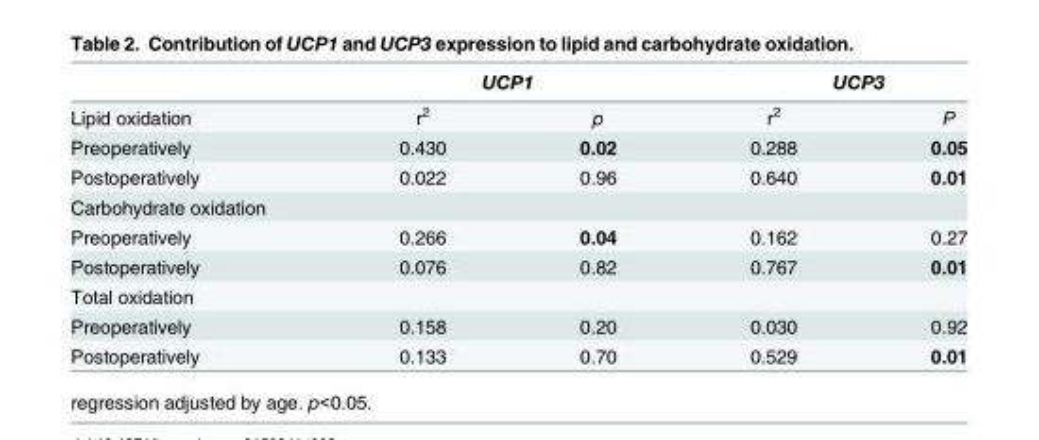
<table><thead><tr><td rowspan="2">Lipid oxidation</td><td colspan="2">UCP1</td><td colspan="2">UCP3</td></tr><tr><td>r<sup>2</sup></td><td>p</td><td>r<sup>2</sup></td><td>P</td></tr></thead><tbody><tr><td>Preoperatively</td><td>0.430</td><td>0.02</td><td>0.288</td><td>0.05</td></tr><tr><td>Postoperatively</td><td>0.022</td><td>0.96</td><td>0.640</td><td>0.01</td></tr><tr><td colspan="5">Carbohydrate oxidation</td></tr><tr><td>Preoperatively</td><td>0.266</td><td>0.04</td><td>0.162</td><td>0.27</td></tr><tr><td>Postoperatively</td><td>0.076</td><td>0.82</td><td>0.767</td><td>0.01</td></tr><tr><td colspan="5">Total oxidation</td></tr><tr><td>Preoperatively</td><td>0.158</td><td>0.20</td><td>0.030</td><td>0.92</td></tr><tr><td>Postoperatively</td><td>0.133</td><td>0.70</td><td>0.529</td><td>0.01</td></tr></tbody></table>